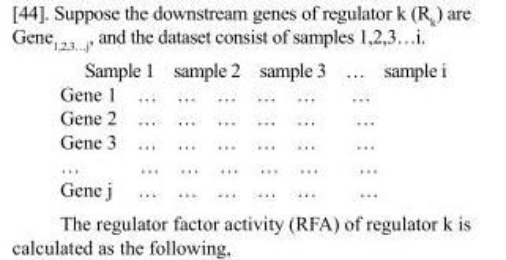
<table><tbody><tr><td colspan="2">Sample 1</td><td colspan="2">sample 2</td><td colspan="2">sample 3</td><td>…</td><td>sample i</td></tr><tr><td>Gene 1</td><td>…</td><td>…</td><td>…</td><td>…</td><td>…</td><td>…</td><td></td></tr><tr><td>Gene 2</td><td>…</td><td>…</td><td>…</td><td>…</td><td>…</td><td>…</td><td></td></tr><tr><td>Gene 3</td><td>…</td><td>…</td><td>…</td><td>…</td><td>…</td><td>…</td><td></td></tr><tr><td>…</td><td>…</td><td>…</td><td>…</td><td>…</td><td>…</td><td>…</td><td></td></tr><tr><td>Gene j</td><td>…</td><td>…</td><td>…</td><td>…</td><td>…</td><td>…</td><td></td></tr></tbody></table>